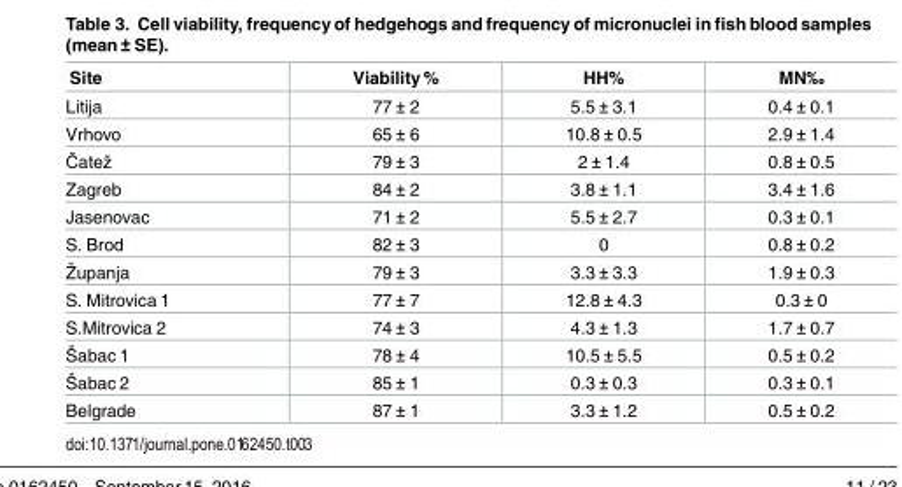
<table><thead><tr><td>Site</td><td>Viability %</td><td>HH%</td><td>MN‰</td></tr></thead><tbody><tr><td>Litija</td><td>77 ± 2</td><td>5.5 ± 3.1</td><td>0.4 ± 0.1</td></tr><tr><td>Vrhovo</td><td>65 ± 6</td><td>10.8 ± 0.5</td><td>2.9 ± 1.4</td></tr><tr><td>Čatež</td><td>79 ± 3</td><td>2 ± 1.4</td><td>0.8 ± 0.5</td></tr><tr><td>Zagreb</td><td>84 ± 2</td><td>3.8 ± 1.1</td><td>3.4 ± 1.6</td></tr><tr><td>Jasenovac</td><td>71 ± 2</td><td>5.5 ± 2.7</td><td>0.3 ± 0.1</td></tr><tr><td>S. Brod</td><td>82 ± 3</td><td>0</td><td>0.8 ± 0.2</td></tr><tr><td>Županja</td><td>79 ± 3</td><td>3.3 ± 3.3</td><td>1.9 ± 0.3</td></tr><tr><td>S. Mitrovica 1</td><td>77 ± 7</td><td>12.8 ± 4.3</td><td>0.3 ± 0</td></tr><tr><td>S.Mitrovica 2</td><td>74 ± 3</td><td>4.3 ± 1.3</td><td>1.7 ± 0.7</td></tr><tr><td>Šabac 1</td><td>78 ± 4</td><td>10.5 ± 5.5</td><td>0.5 ± 0.2</td></tr><tr><td>Šabac 2</td><td>85 ± 1</td><td>0.3 ± 0.3</td><td>0.3 ± 0.1</td></tr><tr><td>Belgrade</td><td>87 ± 1</td><td>3.3 ± 1.2</td><td>0.5 ± 0.2</td></tr></tbody></table>